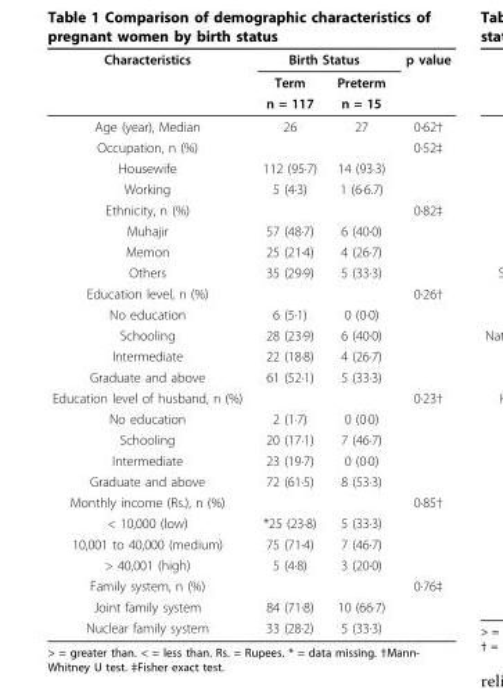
<table><thead><tr><td rowspan="3">Characteristics</td><td colspan="2">Birth Status</td><td rowspan="3">p value</td></tr><tr><td rowspan="2">Term n = 117</td><td rowspan="2">Preterm n = 15</td></tr><tr></tr></thead><tbody><tr><td>Age (year), Median</td><td>26</td><td>27</td><td>0·62†</td></tr><tr><td>Occupation, n (%)</td><td></td><td></td><td>0·52‡</td></tr><tr><td>Housewife</td><td>112 (95·7)</td><td>14 (93·3)</td><td></td></tr><tr><td>Working</td><td>5 (4·3)</td><td>1 (6·6.7)</td><td></td></tr><tr><td>Ethnicity, n (%)</td><td></td><td></td><td>0·82‡</td></tr><tr><td>Muhajir</td><td>57 (48·7)</td><td>6 (40·0)</td><td></td></tr><tr><td>Memon</td><td>25 (21·4)</td><td>4 (26·7)</td><td></td></tr><tr><td>Others</td><td>35 (29·9)</td><td>5 (33·3)</td><td></td></tr><tr><td>Education level, n (%)</td><td></td><td></td><td>0·26†</td></tr><tr><td>No education</td><td>6 (5·1)</td><td>0 (0·0)</td><td></td></tr><tr><td>Schooling</td><td>28 (23·9)</td><td>6 (40·0)</td><td></td></tr><tr><td>Intermediate</td><td>22 (18·8)</td><td>4 (26·7)</td><td></td></tr><tr><td>Graduate and above</td><td>61 (52·1)</td><td>5 (33·3)</td><td></td></tr><tr><td>Education level of husband, n (%)</td><td></td><td></td><td>0·23†</td></tr><tr><td>No education</td><td>2 (1·7)</td><td>0 (0·0)</td><td></td></tr><tr><td>Schooling</td><td>20 (17·1)</td><td>7 (46·7)</td><td></td></tr><tr><td>Intermediate</td><td>23 (19·7)</td><td>0 (0·0)</td><td></td></tr><tr><td>Graduate and above</td><td>72 (61·5)</td><td>8 (53·3)</td><td></td></tr><tr><td>Monthly income (Rs.), n (%)</td><td></td><td></td><td>0·85†</td></tr><tr><td>&lt; 10,000 (low)</td><td>*25 (23·8)</td><td>5 (33·3)</td><td></td></tr><tr><td>10,001 to 40,000 (medium)</td><td>75 (71·4)</td><td>7 (46·7)</td><td></td></tr><tr><td>&gt; 40,001 (high)</td><td>5 (4·8)</td><td>3 (20·0)</td><td></td></tr><tr><td>Family system, n (%)</td><td></td><td></td><td>0·76‡</td></tr><tr><td>Joint family system</td><td>84 (71·8)</td><td>10 (66·7)</td><td></td></tr><tr><td>Nuclear family system</td><td>33 (28·2)</td><td>5 (33·3)</td><td></td></tr></tbody></table>